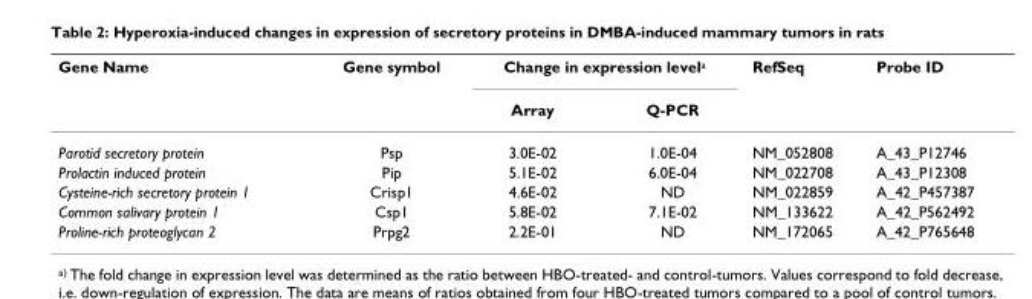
<table><thead><tr><td rowspan="2">Gene Name</td><td rowspan="2">Gene symbol</td><td colspan="2">Change in expression levela</td><td rowspan="2">RefSeq</td><td rowspan="2">Probe ID</td></tr><tr><td>Array</td><td>Q-PCR</td></tr></thead><tbody><tr><td>Parotid secretory protein</td><td>Psp</td><td>3.0E-02</td><td>1.0E-04</td><td>NM_052808</td><td>A_43_P12746</td></tr><tr><td>Prolactin induced protein</td><td>Pip</td><td>5.1E-02</td><td>6.0E-04</td><td>NM_022708</td><td>A_43_P12308</td></tr><tr><td>Cysteine-rich secretory protein 1</td><td>Crisp1</td><td>4.6E-02</td><td>ND</td><td>NM_022859</td><td>A_42_P457387</td></tr><tr><td>Common salivary protein 1</td><td>Csp1</td><td>5.8E-02</td><td>7.1E-02</td><td>NM_133622</td><td>A_42_P562492</td></tr><tr><td>Proline-rich proteoglycan 2</td><td>Prpg2</td><td>2.2E-01</td><td>ND</td><td>NM_172065</td><td>A_42_P765648</td></tr></tbody></table>